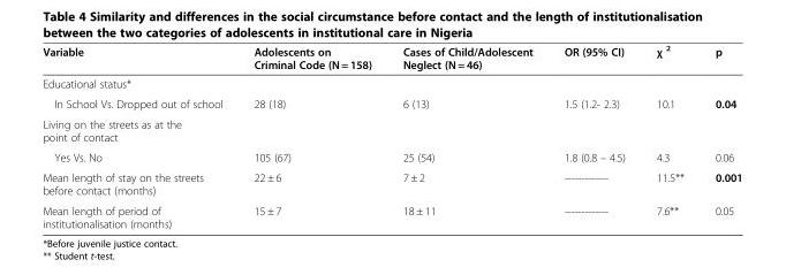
<table><thead><tr><td>Variable</td><td>Adolescents on Criminal Code (N = 158)</td><td>Cases of Child/Adolescent Neglect (N = 46)</td><td>OR (95% CI)</td><td>χ <sup>2</sup></td><td>p</td></tr></thead><tbody><tr><td colspan="6">Educational status*</td></tr><tr><td>In School Vs. Dropped out of school</td><td>28 (18)</td><td>6 (13)</td><td>1.5 (1.2- 2.3)</td><td>10.1</td><td>0.04</td></tr><tr><td colspan="6">Living on the streets as at the point of contact</td></tr><tr><td>Yes Vs. No</td><td>105 (67)</td><td>25 (54)</td><td>1.8 (0.8 – 4.5)</td><td>4.3</td><td>0.06</td></tr><tr><td>Mean length of stay on the streets before contact (months)</td><td>22 ± 6</td><td>7 ± 2</td><td>-------------</td><td>11.5**</td><td>0.001</td></tr><tr><td>Mean length of period of institutionalisation (months)</td><td>15 ± 7</td><td>18 ± 11</td><td>-------------</td><td>7.6**</td><td>0.05</td></tr></tbody></table>